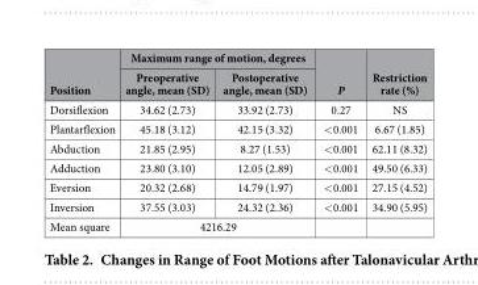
<table><thead><tr><td rowspan="2">Position</td><td colspan="2">Maximum range of motion, degrees</td><td rowspan="2">P</td><td rowspan="2">Restriction rate (%)</td></tr><tr><td>Preoperative angle, mean (SD)</td><td>Postoperative angle, mean (SD)</td></tr></thead><tbody><tr><td>Dorsiflexion</td><td>34.62 (2.73)</td><td>33.92 (2.73)</td><td>0.27</td><td>NS</td></tr><tr><td>Plantarflexion</td><td>45.18 (3.12)</td><td>42.15 (3.32)</td><td>&lt; 0.001</td><td>6.67 (1.85)</td></tr><tr><td>Abduction</td><td>21.85 (2.95)</td><td>8.27 (1.53)</td><td>&lt; 0.001</td><td>62.11 (8.32)</td></tr><tr><td>Adduction</td><td>23.80 (3.10)</td><td>12.05 (2.89)</td><td>&lt; 0.001</td><td>49.50 (6.33)</td></tr><tr><td>Eversion</td><td>20.32 (2.68)</td><td>14.79 (1.97)</td><td>&lt; 0.001</td><td>27.15 (4.52)</td></tr><tr><td>Inversion</td><td>37.55 (3.03)</td><td>24.32 (2.36)</td><td>&lt; 0.001</td><td>34.90 (5.95)</td></tr><tr><td>Mean square</td><td colspan="2">4216.29</td><td></td><td></td></tr></tbody></table>